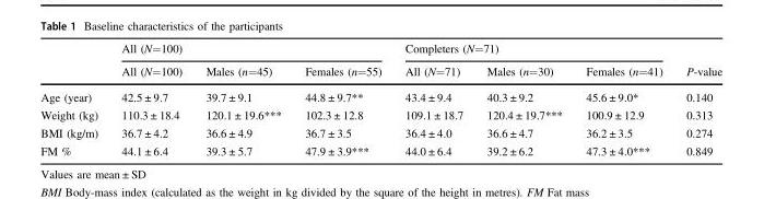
<table><thead><tr><td rowspan="2"></td><td colspan="3">All (N=100)</td><td colspan="3">Completers (N=71)</td><td rowspan="2">P-value</td></tr><tr><td>All (N=100)</td><td>Males (n=45)</td><td>Females (n=55)</td><td>All (N=71)</td><td>Males (n=30)</td><td>Females (n=41)</td></tr></thead><tbody><tr><td>Age (year)</td><td>42.5 ± 9.7</td><td>39.7 ± 9.1</td><td>44.8 ± 9.7**</td><td>43.4 ± 9.4</td><td>40.3 ± 9.2</td><td>45.6 ± 9.0*</td><td>0.140</td></tr><tr><td>Weight (kg)</td><td>110.3 ± 18.4</td><td>120.1 ± 19.6***</td><td>102.3 ± 12.8</td><td>109.1 ± 18.7</td><td>120.4 ± 19.7***</td><td>100.9 ± 12.9</td><td>0.313</td></tr><tr><td>BMI (kg/m)</td><td>36.7 ± 4.2</td><td>36.6 ± 4.9</td><td>36.7 ± 3.5</td><td>36.4 ± 4.0</td><td>36.6 ± 4.7</td><td>36.2 ± 3.5</td><td>0.274</td></tr><tr><td>FM %</td><td>44.1 ± 6.4</td><td>39.3 ± 5.7</td><td>47.9 ± 3.9***</td><td>44.0 ± 6.4</td><td>39.2 ± 6.2</td><td>47.3 ± 4.0***</td><td>0.849</td></tr></tbody></table>